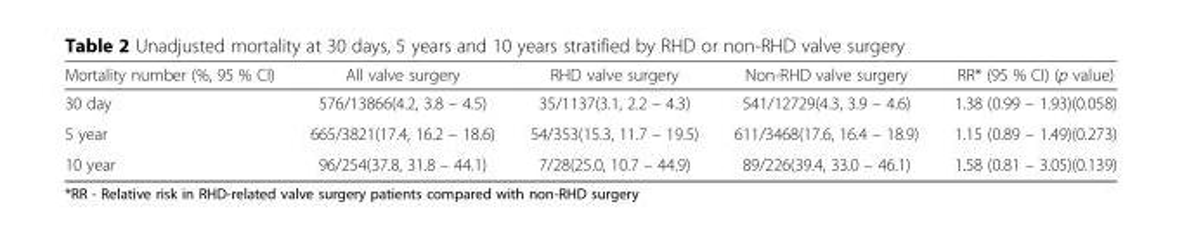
<table><thead><tr><td>Mortality number (%, 95 % CI)</td><td>All valve surgery</td><td>RHD valve surgery</td><td>Non-RHD valve surgery</td><td>RR* (95 % CI) (p value)</td></tr></thead><tbody><tr><td>30 day</td><td>576/13866(4.2, 3.8 – 4.5)</td><td>35/1137(3.1, 2.2 – 4.3)</td><td>541/12729(4.3, 3.9 – 4.6)</td><td>1.38 (0.99 – 1.93)(0.058)</td></tr><tr><td>5 year</td><td>665/3821(17.4, 16.2 – 18.6)</td><td>54/353(15.3, 11.7 – 19.5)</td><td>611/3468(17.6, 16.4 – 18.9)</td><td>1.15 (0.89 – 1.49)(0.273)</td></tr><tr><td>10 year</td><td>96/254(37.8, 31.8 – 44.1)</td><td>7/28(25.0, 10.7 – 44.9)</td><td>89/226(39.4, 33.0 – 46.1)</td><td>1.58 (0.81 – 3.05)(0.139)</td></tr></tbody></table>